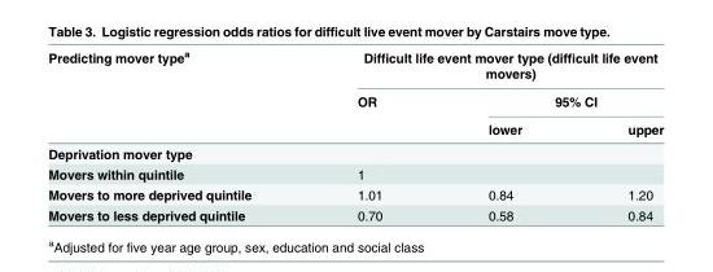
<table><thead><tr><td rowspan="3">Predicting mover type<sup>a</sup></td><td colspan="3">Difficult life event mover type (difficult life event movers)</td></tr><tr><td rowspan="2">OR</td><td colspan="2">95% CI</td></tr><tr><td>lower</td><td>upper</td></tr></thead><tbody><tr><td colspan="4">Deprivation mover type</td></tr><tr><td>Movers within quintile</td><td>1</td><td></td><td></td></tr><tr><td>Movers to more deprived quintile</td><td>1.01</td><td>0.84</td><td>1.20</td></tr><tr><td>Movers to less deprived quintile</td><td>0.70</td><td>0.58</td><td>0.84</td></tr></tbody></table>